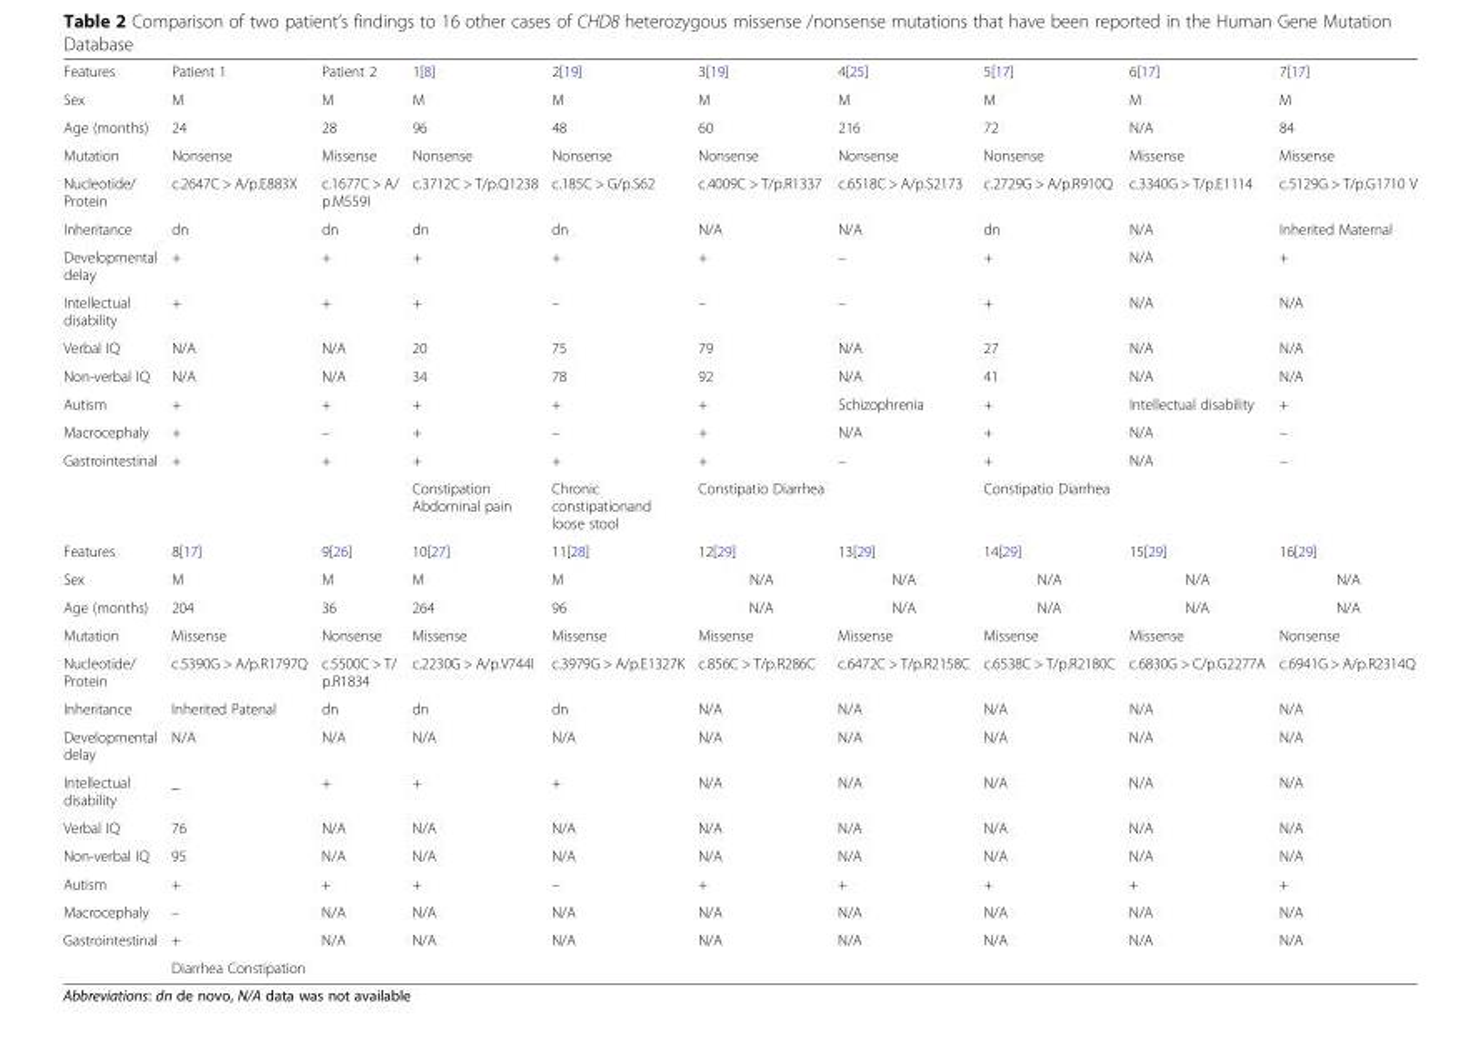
<table><tbody><tr><td>Features</td><td>Patient 1</td><td>Patient 2</td><td>1[8]</td><td>2[19]</td><td>3[19]</td><td>4[25]</td><td>5[17]</td><td>6[17]</td><td>7[17]</td></tr><tr><td>Sex</td><td>M</td><td>M</td><td>M</td><td>M</td><td>M</td><td>M</td><td>M</td><td>M</td><td>M</td></tr><tr><td>Age (months)</td><td>24</td><td>28</td><td>96</td><td>48</td><td>60</td><td>216</td><td>72</td><td>N/A</td><td>84</td></tr><tr><td>Mutation</td><td>Nonsense</td><td>Missense</td><td>Nonsense</td><td>Nonsense</td><td>Nonsense</td><td>Nonsense</td><td>Nonsense</td><td>Missense</td><td>Missense</td></tr><tr><td>Nucleotide/ Protein</td><td>c.2647C &gt; A/p.E883X</td><td>c.1677C &gt; A/ p.M559I</td><td>c.3712C &gt; T/p.Q1238</td><td>c.185C &gt; G/p.S62</td><td>c.4009C &gt; T/p.R1337</td><td>c.6518C &gt; A/p.S2173</td><td>c.2729G &gt; A/p.R910Q</td><td>c.3340G &gt; T/p.E1114</td><td>c.5129G &gt; T/p.G1710 V</td></tr><tr><td>Inheritance</td><td>dn</td><td>dn</td><td>dn</td><td>dn</td><td>N/A</td><td>N/A</td><td>dn</td><td>N/A</td><td>Inherited Maternal</td></tr><tr><td>Developmental delay</td><td>+</td><td>+</td><td>+</td><td>+</td><td>+</td><td>–</td><td>+</td><td>N/A</td><td>+</td></tr><tr><td>Intellectual disability</td><td>+</td><td>+</td><td>+</td><td>–</td><td>–</td><td>–</td><td>+</td><td>N/A</td><td>N/A</td></tr><tr><td>Verbal IQ</td><td>N/A</td><td>N/A</td><td>20</td><td>75</td><td>79</td><td>N/A</td><td>27</td><td>N/A</td><td>N/A</td></tr><tr><td>Non-verbal IQ</td><td>N/A</td><td>N/A</td><td>34</td><td>78</td><td>92</td><td>N/A</td><td>41</td><td>N/A</td><td>N/A</td></tr><tr><td>Autism</td><td>+</td><td>+</td><td>+</td><td>+</td><td>+</td><td>Schizophrenia</td><td>+</td><td>Intellectual disability</td><td>+</td></tr><tr><td>Macrocephaly</td><td>+</td><td>–</td><td>+</td><td>–</td><td>+</td><td>N/A</td><td>+</td><td>N/A</td><td>–</td></tr><tr><td rowspan="2">Gastrointestinal</td><td>+</td><td>+</td><td>+</td><td>+</td><td>+</td><td>–</td><td>+</td><td>N/A</td><td>–</td></tr><tr><td></td><td></td><td>Constipation Abdominal pain</td><td>Chronic constipationand loose stool</td><td>Constipatio Diarrhea</td><td></td><td>Constipatio Diarrhea</td><td></td><td></td></tr><tr><td>Features</td><td>8[17]</td><td>9[26]</td><td>10[27]</td><td>11[28]</td><td>12[29]</td><td>13[29]</td><td>14[29]</td><td>15[29]</td><td>16[29]</td></tr><tr><td>Sex</td><td>M</td><td>M</td><td>M</td><td>M</td><td>N/A</td><td>N/A</td><td>N/A</td><td>N/A</td><td>N/A</td></tr><tr><td>Age (months)</td><td>204</td><td>36</td><td>264</td><td>96</td><td>N/A</td><td>N/A</td><td>N/A</td><td>N/A</td><td>N/A</td></tr><tr><td>Mutation</td><td>Missense</td><td>Nonsense</td><td>Missense</td><td>Missense</td><td>Missense</td><td>Missense</td><td>Missense</td><td>Missense</td><td>Nonsense</td></tr><tr><td>Nucleotide/ Protein</td><td>c.5390G &gt; A/p.R1797Q</td><td>c.5500C &gt; T/ p.R1834</td><td>c.2230G &gt; A/p.V744I</td><td>c.3979G &gt; A/p.E1327K</td><td>c.856C &gt; T/p.R286C</td><td>c.6472C &gt; T/p.R2158C</td><td>c.6538C &gt; T/p.R2180C</td><td>c.6830G &gt; C/p.G2277A</td><td>c.6941G &gt; A/p.R2314Q</td></tr><tr><td>Inheritance</td><td>Inherited Patenal</td><td>dn</td><td>dn</td><td>dn</td><td>N/A</td><td>N/A</td><td>N/A</td><td>N/A</td><td>N/A</td></tr><tr><td>Developmental delay</td><td>N/A</td><td>N/A</td><td>N/A</td><td>N/A</td><td>N/A</td><td>N/A</td><td>N/A</td><td>N/A</td><td>N/A</td></tr><tr><td>Intellectual disability</td><td>_</td><td>+</td><td>+</td><td>+</td><td>N/A</td><td>N/A</td><td>N/A</td><td>N/A</td><td>N/A</td></tr><tr><td>Verbal IQ</td><td>76</td><td>N/A</td><td>N/A</td><td>N/A</td><td>N/A</td><td>N/A</td><td>N/A</td><td>N/A</td><td>N/A</td></tr><tr><td>Non-verbal IQ</td><td>95</td><td>N/A</td><td>N/A</td><td>N/A</td><td>N/A</td><td>N/A</td><td>N/A</td><td>N/A</td><td>N/A</td></tr><tr><td>Autism</td><td>+</td><td>+</td><td>+</td><td>–</td><td>+</td><td>+</td><td>+</td><td>+</td><td>+</td></tr><tr><td>Macrocephaly</td><td>–</td><td>N/A</td><td>N/A</td><td>N/A</td><td>N/A</td><td>N/A</td><td>N/A</td><td>N/A</td><td>N/A</td></tr><tr><td rowspan="2">Gastrointestinal</td><td>+</td><td>N/A</td><td>N/A</td><td>N/A</td><td>N/A</td><td>N/A</td><td>N/A</td><td>N/A</td><td>N/A</td></tr><tr><td>Diarrhea Constipation</td><td></td><td></td><td></td><td></td><td></td><td></td><td></td><td></td></tr></tbody></table>